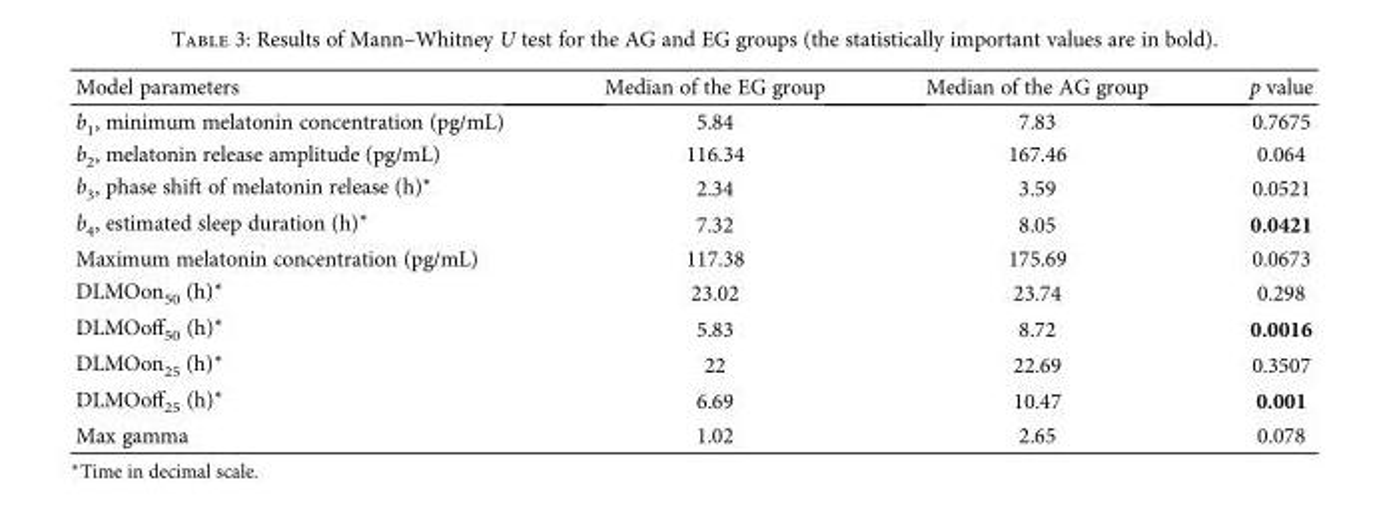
<table><thead><tr><td>Model parameters</td><td>Median of the EG group</td><td>Median of the AG group</td><td>p value</td></tr></thead><tbody><tr><td>b<sub>1</sub>, minimum melatonin concentration (pg/mL)</td><td>5.84</td><td>7.83</td><td>0.7675</td></tr><tr><td>b<sub>2</sub>, melatonin release amplitude (pg/mL)</td><td>116.34</td><td>167.46</td><td>0.064</td></tr><tr><td>b<sub>3</sub>, phase shift of melatonin release (h)∗</td><td>2.34</td><td>3.59</td><td>0.0521</td></tr><tr><td>b<sub>4</sub>, estimated sleep duration (h)∗</td><td>7.32</td><td>8.05</td><td>0.0421</td></tr><tr><td>Maximum melatonin concentration (pg/mL)</td><td>117.38</td><td>175.69</td><td>0.0673</td></tr><tr><td>DLMOon<sub>50</sub> (h)∗</td><td>23.02</td><td>23.74</td><td>0.298</td></tr><tr><td>DLMOoff<sub>50</sub> (h)∗</td><td>5.83</td><td>8.72</td><td>0.0016</td></tr><tr><td>DLMOon<sub>25</sub> (h)∗</td><td>22</td><td>22.69</td><td>0.3507</td></tr><tr><td>DLMOoff<sub>25</sub> (h)∗</td><td>6.69</td><td>10.47</td><td>0.001</td></tr><tr><td>Max gamma</td><td>1.02</td><td>2.65</td><td>0.078</td></tr></tbody></table>